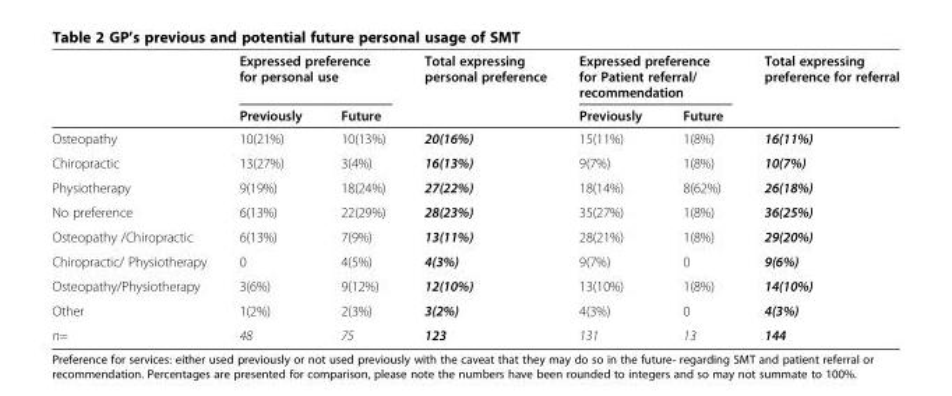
<table><thead><tr><td rowspan="2"></td><td colspan="2">Expressed preference for personal use</td><td rowspan="2">Total expressing personal preference</td><td colspan="2">Expressed preference for Patient referral/ recommendation</td><td rowspan="2">Total expressing preference for referral</td></tr><tr><td>Previously</td><td>Future</td><td>Previously</td><td>Future</td></tr></thead><tbody><tr><td>Osteopathy</td><td>10(21%)</td><td>10(13%)</td><td>20(16%)</td><td>15(11%)</td><td>1(8%)</td><td>16(11%)</td></tr><tr><td>Chiropractic</td><td>13(27%)</td><td>3(4%)</td><td>16(13%)</td><td>9(7%)</td><td>1(8%)</td><td>10(7%)</td></tr><tr><td>Physiotherapy</td><td>9(19%)</td><td>18(24%)</td><td>27(22%)</td><td>18(14%)</td><td>8(62%)</td><td>26(18%)</td></tr><tr><td>No preference</td><td>6(13%)</td><td>22(29%)</td><td>28(23%)</td><td>35(27%)</td><td>1(8%)</td><td>36(25%)</td></tr><tr><td>Osteopathy /Chiropractic</td><td>6(13%)</td><td>7(9%)</td><td>13(11%)</td><td>28(21%)</td><td>1(8%)</td><td>29(20%)</td></tr><tr><td>Chiropractic/ Physiotherapy</td><td>0</td><td>4(5%)</td><td>4(3%)</td><td>9(7%)</td><td>0</td><td>9(6%)</td></tr><tr><td>Osteopathy/Physiotherapy</td><td>3(6%)</td><td>9(12%)</td><td>12(10%)</td><td>13(10%)</td><td>1(8%)</td><td>14(10%)</td></tr><tr><td>Other</td><td>1(2%)</td><td>2(3%)</td><td>3(2%)</td><td>4(3%)</td><td>0</td><td>4(3%)</td></tr><tr><td>n=</td><td>48</td><td>75</td><td>123</td><td>131</td><td>13</td><td>144</td></tr></tbody></table>